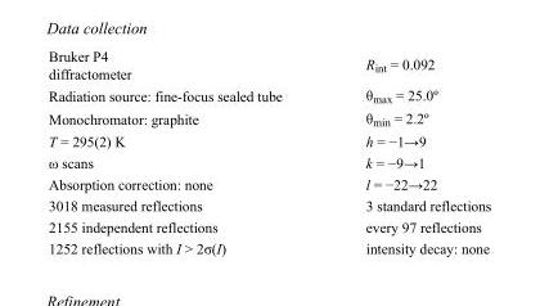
<table><tbody><tr><td>Bruker P4 diffractometer</td><td>R<sub>int</sub> = 0.092</td></tr><tr><td>Radiation source: fine-focus sealed tube</td><td>θ<sub>max</sub> = 25.0º</td></tr><tr><td>Monochromator: graphite</td><td>θ<sub>min</sub> = 2.2º</td></tr><tr><td>T = 295(2) K</td><td>h = −1→9</td></tr><tr><td>ω scans</td><td>k = −9→1</td></tr><tr><td>Absorption correction: none</td><td>l = −22→22</td></tr><tr><td>3018 measured reflections</td><td>3 standard reflections</td></tr><tr><td>2155 independent reflections</td><td>every 97 reflections</td></tr><tr><td>1252 reflections with I &gt; 2σ(I)</td><td>intensity decay: none</td></tr></tbody></table>